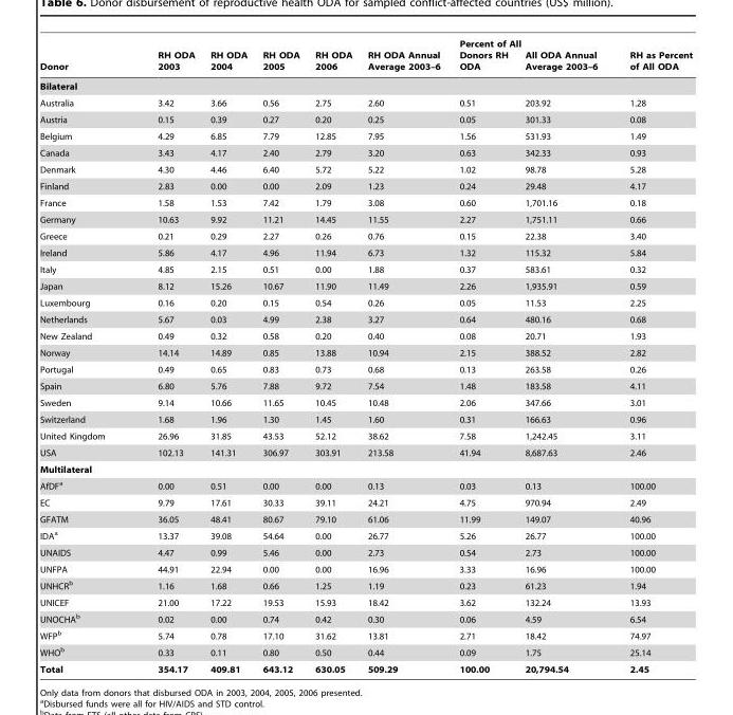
<table><thead><tr><td>Donor</td><td>RH ODA 2003</td><td>RH ODA 2004</td><td>RH ODA 2005</td><td>RH ODA 2006</td><td>RH ODA Annual Average 2003–6</td><td>Percent of All Donors RH ODA</td><td>All ODA Annual Average 2003–6</td><td>RH as Percent of All ODA</td></tr></thead><tbody><tr><td colspan="9">Bilateral</td></tr><tr><td>Australia</td><td>3.42</td><td>3.66</td><td>0.56</td><td>2.75</td><td>2.60</td><td>0.51</td><td>203.92</td><td>1.28</td></tr><tr><td>Austria</td><td>0.15</td><td>0.39</td><td>0.27</td><td>0.20</td><td>0.25</td><td>0.05</td><td>301.33</td><td>0.08</td></tr><tr><td>Belgium</td><td>4.29</td><td>6.85</td><td>7.79</td><td>12.85</td><td>7.95</td><td>1.56</td><td>531.93</td><td>1.49</td></tr><tr><td>Canada</td><td>3.43</td><td>4.17</td><td>2.40</td><td>2.79</td><td>3.20</td><td>0.63</td><td>342.33</td><td>0.93</td></tr><tr><td>Denmark</td><td>4.30</td><td>4.46</td><td>6.40</td><td>5.72</td><td>5.22</td><td>1.02</td><td>98.78</td><td>5.28</td></tr><tr><td>Finland</td><td>2.83</td><td>0.00</td><td>0.00</td><td>2.09</td><td>1.23</td><td>0.24</td><td>29.48</td><td>4.17</td></tr><tr><td>France</td><td>1.58</td><td>1.53</td><td>7.42</td><td>1.79</td><td>3.08</td><td>0.60</td><td>1,701.16</td><td>0.18</td></tr><tr><td>Germany</td><td>10.63</td><td>9.92</td><td>11.21</td><td>14.45</td><td>11.55</td><td>2.27</td><td>1,751.11</td><td>0.66</td></tr><tr><td>Greece</td><td>0.21</td><td>0.29</td><td>2.27</td><td>0.26</td><td>0.76</td><td>0.15</td><td>22.38</td><td>3.40</td></tr><tr><td>Ireland</td><td>5.86</td><td>4.17</td><td>4.96</td><td>11.94</td><td>6.73</td><td>1.32</td><td>115.32</td><td>5.84</td></tr><tr><td>Italy</td><td>4.85</td><td>2.15</td><td>0.51</td><td>0.00</td><td>1.88</td><td>0.37</td><td>583.61</td><td>0.32</td></tr><tr><td>Japan</td><td>8.12</td><td>15.26</td><td>10.67</td><td>11.90</td><td>11.49</td><td>2.26</td><td>1,935.91</td><td>0.59</td></tr><tr><td>Luxembourg</td><td>0.16</td><td>0.20</td><td>0.15</td><td>0.54</td><td>0.26</td><td>0.05</td><td>11.53</td><td>2.25</td></tr><tr><td>Netherlands</td><td>5.67</td><td>0.03</td><td>4.99</td><td>2.38</td><td>3.27</td><td>0.64</td><td>480.16</td><td>0.68</td></tr><tr><td>New Zealand</td><td>0.49</td><td>0.32</td><td>0.58</td><td>0.20</td><td>0.40</td><td>0.08</td><td>20.71</td><td>1.93</td></tr><tr><td>Norway</td><td>14.14</td><td>14.89</td><td>0.85</td><td>13.88</td><td>10.94</td><td>2.15</td><td>388.52</td><td>2.82</td></tr><tr><td>Portugal</td><td>0.49</td><td>0.65</td><td>0.83</td><td>0.73</td><td>0.68</td><td>0.13</td><td>263.58</td><td>0.26</td></tr><tr><td>Spain</td><td>6.80</td><td>5.76</td><td>7.88</td><td>9.72</td><td>7.54</td><td>1.48</td><td>183.58</td><td>4.11</td></tr><tr><td>Sweden</td><td>9.14</td><td>10.66</td><td>11.65</td><td>10.45</td><td>10.48</td><td>2.06</td><td>347.66</td><td>3.01</td></tr><tr><td>Switzerland</td><td>1.68</td><td>1.96</td><td>1.30</td><td>1.45</td><td>1.60</td><td>0.31</td><td>166.63</td><td>0.96</td></tr><tr><td>United Kingdom</td><td>26.96</td><td>31.85</td><td>43.53</td><td>52.12</td><td>38.62</td><td>7.58</td><td>1,242.45</td><td>3.11</td></tr><tr><td>USA</td><td>102.13</td><td>141.31</td><td>306.97</td><td>303.91</td><td>213.58</td><td>41.94</td><td>8,687.63</td><td>2.46</td></tr><tr><td colspan="9">Multilateral</td></tr><tr><td>AfDF<sup>a</sup></td><td>0.00</td><td>0.51</td><td>0.00</td><td>0.00</td><td>0.13</td><td>0.03</td><td>0.13</td><td>100.00</td></tr><tr><td>EC</td><td>9.79</td><td>17.61</td><td>30.33</td><td>39.11</td><td>24.21</td><td>4.75</td><td>970.94</td><td>2.49</td></tr><tr><td>GFATM</td><td>36.05</td><td>48.41</td><td>80.67</td><td>79.10</td><td>61.06</td><td>11.99</td><td>149.07</td><td>40.96</td></tr><tr><td>IDA<sup>a</sup></td><td>13.37</td><td>39.08</td><td>54.64</td><td>0.00</td><td>26.77</td><td>5.26</td><td>26.77</td><td>100.00</td></tr><tr><td>UNAIDS</td><td>4.47</td><td>0.99</td><td>5.46</td><td>0.00</td><td>2.73</td><td>0.54</td><td>2.73</td><td>100.00</td></tr><tr><td>UNFPA</td><td>44.91</td><td>22.94</td><td>0.00</td><td>0.00</td><td>16.96</td><td>3.33</td><td>16.96</td><td>100.00</td></tr><tr><td>UNHCR<sup>b</sup></td><td>1.16</td><td>1.68</td><td>0.66</td><td>1.25</td><td>1.19</td><td>0.23</td><td>61.23</td><td>1.94</td></tr><tr><td>UNICEF</td><td>21.00</td><td>17.22</td><td>19.53</td><td>15.93</td><td>18.42</td><td>3.62</td><td>132.24</td><td>13.93</td></tr><tr><td>UNOCHA<sup>b</sup></td><td>0.02</td><td>0.00</td><td>0.74</td><td>0.42</td><td>0.30</td><td>0.06</td><td>4.59</td><td>6.54</td></tr><tr><td>WFP<sup>b</sup></td><td>5.74</td><td>0.78</td><td>17.10</td><td>31.62</td><td>13.81</td><td>2.71</td><td>18.42</td><td>74.97</td></tr><tr><td>WHO<sup>b</sup></td><td>0.33</td><td>0.11</td><td>0.80</td><td>0.50</td><td>0.44</td><td>0.09</td><td>1.75</td><td>25.14</td></tr><tr><td>Total</td><td>354.17</td><td>409.81</td><td>643.12</td><td>630.05</td><td>509.29</td><td>100.00</td><td>20,794.54</td><td>2.45</td></tr></tbody></table>